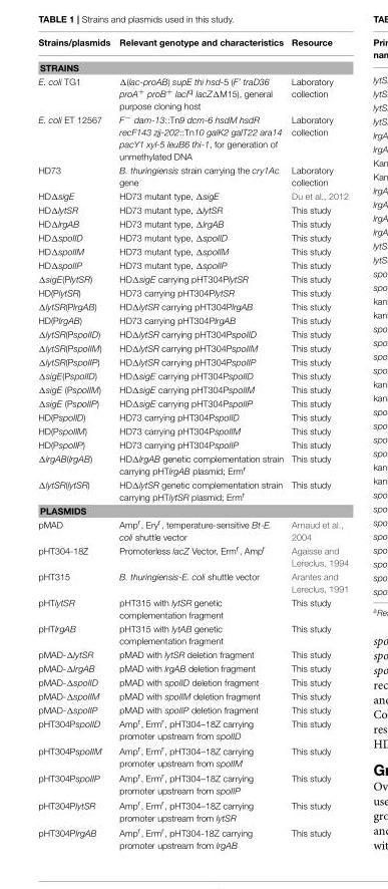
<table><thead><tr><td>Strains/plasmids</td><td>Relevant genotype and characteristics</td><td>Resource</td></tr></thead><tbody><tr><td colspan="3">STRAINS</td></tr><tr><td>E. coli TG1</td><td>Δ(lac-proAB) supE thi hsd-5 (F’ traD36 proA<sup>+</sup> proB<sup>+</sup> lacI<sup>q</sup> lacZΔM15), general purpose cloning host</td><td>Laboratory collection</td></tr><tr><td>E. coli ET 12567</td><td>F<sup>−</sup> dam-13::Tn9 dcm-6 hsdM hsdR recF143 zjj-202::Tn10 galK2 galT22 ara14 pacY1 xyl-5 leuB6 thi-1, for generation of unmethylated DNA</td><td>Laboratory collection</td></tr><tr><td>HD73</td><td>B. thuringiensis strain carrying the cry1Ac gene</td><td>Laboratory collection</td></tr><tr><td>HDΔsigE</td><td>HD73 mutant type, ΔsigE</td><td>Du et al., 2012</td></tr><tr><td>HDΔlytSR</td><td>HD73 mutant type, ΔlytSR</td><td>This study</td></tr><tr><td>HDΔlrgAB</td><td>HD73 mutant type, ΔlrgAB</td><td>This study</td></tr><tr><td>HDΔspoIID</td><td>HD73 mutant type, ΔspoIID</td><td>This study</td></tr><tr><td>HDΔspoIIM</td><td>HD73 mutant type, ΔspoIIM</td><td>This study</td></tr><tr><td>HDΔspoIIP</td><td>HD73 mutant type, ΔspoIIP</td><td>This study</td></tr><tr><td>ΔsigE(PlytSR)</td><td>HDΔsigE carrying pHT304PlytSR</td><td>This study</td></tr><tr><td>HD(PlytSR)</td><td>HD73 carrying pHT304PlytSR</td><td>This study</td></tr><tr><td>ΔlytSR(PlrgAB)</td><td>HDΔlytSR carrying pHT304PlrgAB</td><td>This study</td></tr><tr><td>HD(PlrgAB)</td><td>HD73 carrying pHT304PlrgAB</td><td>This study</td></tr><tr><td>ΔlytSR(PspoIID)</td><td>HDΔlytSR carrying pHT304PspoIID</td><td>This study</td></tr><tr><td>ΔlytSR(PspoIIM)</td><td>HDΔlytSR carrying pHT304PspoIIM</td><td>This study</td></tr><tr><td>ΔlytSR(PspoIIP)</td><td>HDΔlytSR carrying pHT304PspoIIP</td><td>This study</td></tr><tr><td>ΔsigE(PspoIID)</td><td>HDΔsigE carrying pHT304PspoIID</td><td>This study</td></tr><tr><td>ΔsigE (PspoIIM)</td><td>HDΔsigE carrying pHT304PspoIIM</td><td>This study</td></tr><tr><td>ΔsigE (PspoIIP)</td><td>HDΔsigE carrying pHT304PspoIIP</td><td>This study</td></tr><tr><td>HD(PspoIID)</td><td>HD73 carrying pHT304PspoIID</td><td>This study</td></tr><tr><td>HD(PspoIIM)</td><td>HD73 carrying pHT304PspoIIM</td><td>This study</td></tr><tr><td>HD(PspoIIP)</td><td>HD73 carrying pHT304PspoIIP</td><td>This study</td></tr><tr><td>ΔlrgAB(lrgAB)</td><td>HDΔlrgAB genetic complementation strain carrying pHTlrgAB plasmid; Erm<sup>r</sup></td><td>This study</td></tr><tr><td>ΔlytSR(lytSR)</td><td>HDΔlytSR genetic complementation strain carrying pHTlytSR plasmid; Erm<sup>r</sup></td><td>This study</td></tr><tr><td colspan="3">PLASMIDS</td></tr><tr><td>pMAD</td><td>Amp<sup>r</sup>, Ery<sup>r</sup>, temperature-sensitive Bt-E. coli shuttle vector</td><td>Arnaud et al., 2004</td></tr><tr><td>pHT304-18Z</td><td>Promoterless lacZ Vector, Erm<sup>r</sup>, Amp<sup>r</sup></td><td>Agaisse and Lereclus, 1994</td></tr><tr><td>pHT315</td><td>B. thuringiensis-E. coli shuttle vector</td><td>Arantes and Lereclus, 1991</td></tr><tr><td>pHTlytSR</td><td>pHT315 with lytSR genetic complementation fragment</td><td>This study</td></tr><tr><td>pHTlrgAB</td><td>pHT315 with lytAB genetic complementation fragment</td><td>This study</td></tr><tr><td>pMAD-ΔlytSR</td><td>pMAD with lytSR deletion fragment</td><td>This study</td></tr><tr><td>pMAD-ΔIrgAB</td><td>pMAD with lrgAB deletion fragment</td><td>This study</td></tr><tr><td>pMAD-ΔspoIID</td><td>pMAD with spoIID deletion fragment</td><td>This study</td></tr><tr><td>pMAD-ΔspoIIM</td><td>pMAD with spoIIM deletion fragment</td><td>This study</td></tr><tr><td>pMAD-ΔspoIIP</td><td>pMAD with spoIIP deletion fragment</td><td>This study</td></tr><tr><td>pHT304PspoIID</td><td>Amp<sup>r</sup>, Erm<sup>r</sup>, pHT304–18Z carrying promoter upstream from spoIID</td><td>This study</td></tr><tr><td>pHT304PspoIIM</td><td>Amp<sup>r</sup>, Erm<sup>r</sup>, pHT304–18Z carrying promoter upstream from spoIIM</td><td>This study</td></tr><tr><td>pHT304PspoIIP</td><td>Amp<sup>r</sup>, Erm<sup>r</sup>, pHT304–18Z carrying promoter upstream from spoIIP</td><td>This study</td></tr><tr><td>pHT304PlytSR</td><td>Amp<sup>r</sup>, Erm<sup>r</sup>, pHT304–18Z carrying promoter upstream from lytSR</td><td>This study</td></tr><tr><td>pHT304PlrgAB</td><td>Amp<sup>r</sup>, Erm<sup>r</sup>, pHT304-18Z carrying promoter upstream from lrgAB</td><td>This study</td></tr></tbody></table>